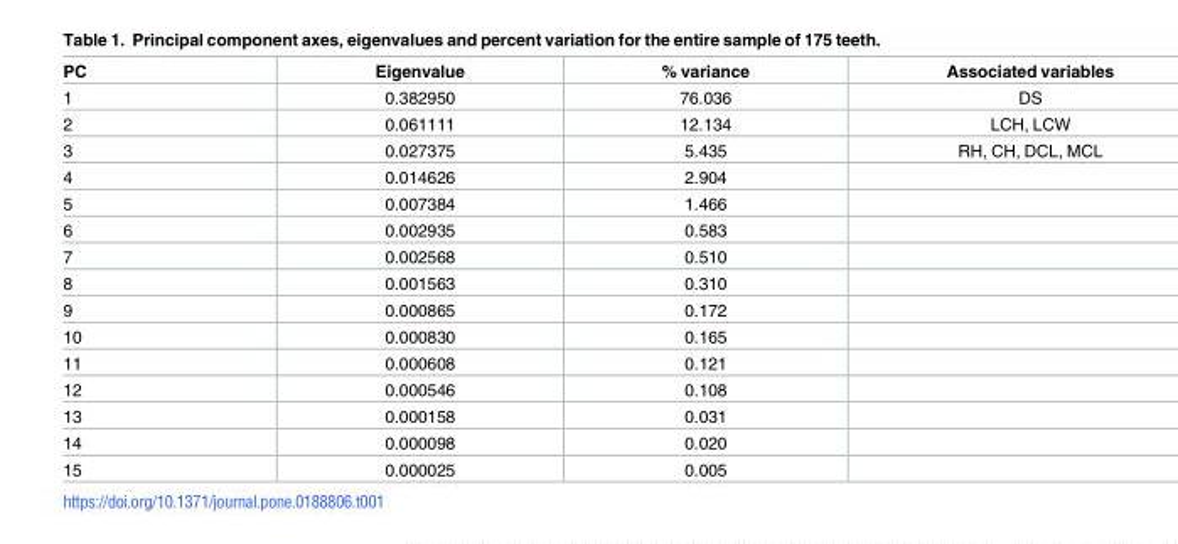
<table><thead><tr><td>PC</td><td>Eigenvalue</td><td>% variance</td><td>Associated variables</td></tr></thead><tbody><tr><td>1</td><td>0.382950</td><td>76.036</td><td>DS</td></tr><tr><td>2</td><td>0.061111</td><td>12.134</td><td>LCH, LCW</td></tr><tr><td>3</td><td>0.027375</td><td>5.435</td><td>RH, CH, DCL, MCL</td></tr><tr><td>4</td><td>0.014626</td><td>2.904</td><td></td></tr><tr><td>5</td><td>0.007384</td><td>1.466</td><td></td></tr><tr><td>6</td><td>0.002935</td><td>0.583</td><td></td></tr><tr><td>7</td><td>0.002568</td><td>0.510</td><td></td></tr><tr><td>8</td><td>0.001563</td><td>0.310</td><td></td></tr><tr><td>9</td><td>0.000865</td><td>0.172</td><td></td></tr><tr><td>10</td><td>0.000830</td><td>0.165</td><td></td></tr><tr><td>11</td><td>0.000608</td><td>0.121</td><td></td></tr><tr><td>12</td><td>0.000546</td><td>0.108</td><td></td></tr><tr><td>13</td><td>0.000158</td><td>0.031</td><td></td></tr><tr><td>14</td><td>0.000098</td><td>0.020</td><td></td></tr><tr><td>15</td><td>0.000025</td><td>0.005</td><td></td></tr></tbody></table>